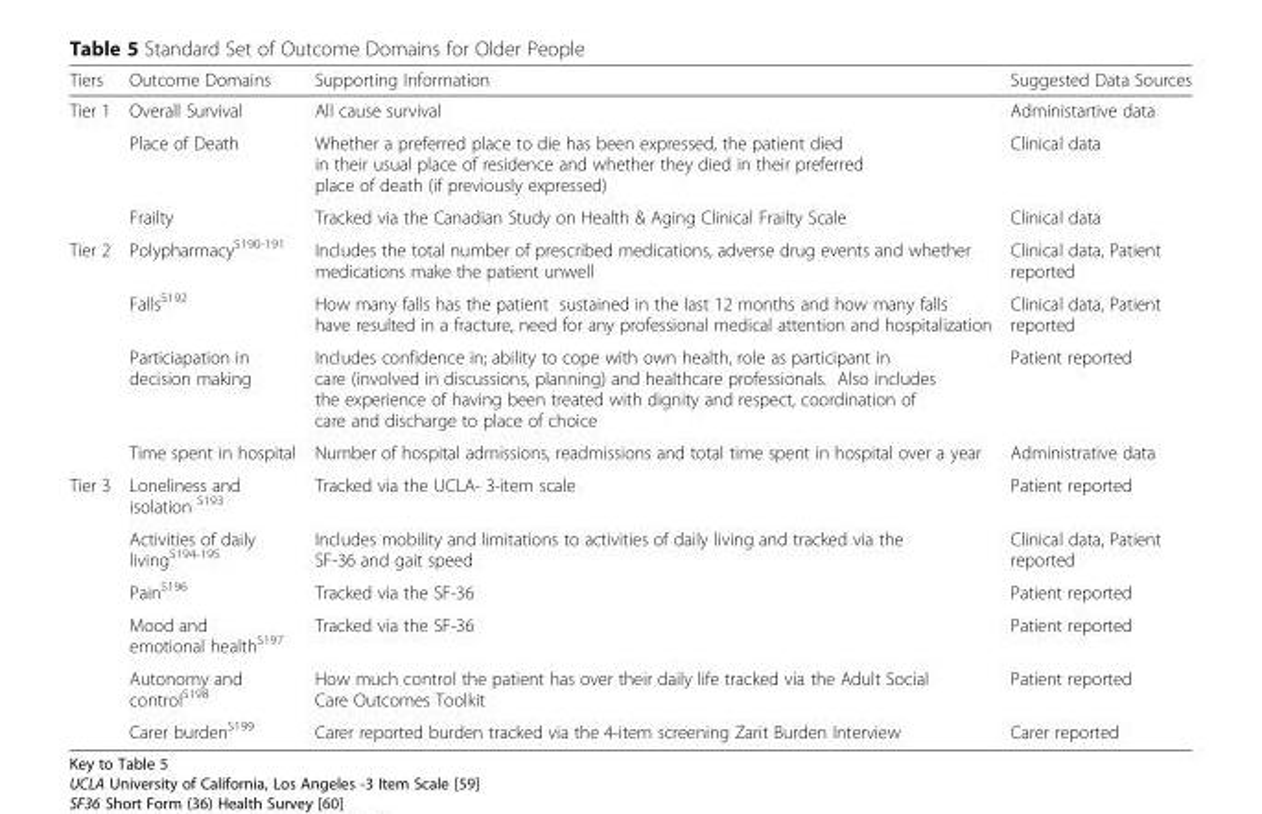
<table><thead><tr><td>Tiers</td><td>Outcome Domains</td><td>Supporting Information</td><td>Suggested Data Sources</td></tr></thead><tbody><tr><td rowspan="3">Tier 1</td><td>Overall Survival</td><td>All cause survival</td><td>Administartive data</td></tr><tr><td>Place of Death</td><td>Whether a preferred place to die has been expressed, the patient died in their usual place of residence and whether they died in their preferred place of death (if previously expressed)</td><td>Clinical data</td></tr><tr><td>Frailty</td><td>Tracked via the Canadian Study on Health &amp; Aging Clinical Frailty Scale</td><td>Clinical data</td></tr><tr><td rowspan="4">Tier 2</td><td>Polypharmacy<sup>S190-191</sup></td><td>Includes the total number of prescribed medications, adverse drug events and whether medications make the patient unwell</td><td>Clinical data, Patient reported</td></tr><tr><td>Falls<sup>S192</sup></td><td>How many falls has the patient sustained in the last 12 months and how many falls have resulted in a fracture, need for any professional medical attention and hospitalization</td><td>Clinical data, Patient reported</td></tr><tr><td>Particiapation in decision making</td><td>Includes confidence in; ability to cope with own health, role as participant in care (involved in discussions, planning) and healthcare professionals. Also includes the experience of having been treated with dignity and respect, coordination of care and discharge to place of choice</td><td>Patient reported</td></tr><tr><td>Time spent in hospital</td><td>Number of hospital admissions, readmissions and total time spent in hospital over a year</td><td>Administrative data</td></tr><tr><td rowspan="6">Tier 3</td><td>Loneliness and isolation <sup>S193</sup></td><td>Tracked via the UCLA- 3-item scale</td><td>Patient reported</td></tr><tr><td>Activities of daily living<sup>S194-195</sup></td><td>Includes mobility and limitations to activities of daily living and tracked via the SF-36 and gait speed</td><td>Clinical data, Patient reported</td></tr><tr><td>Pain<sup>S196</sup></td><td>Tracked via the SF-36</td><td>Patient reported</td></tr><tr><td>Mood and emotional health<sup>S197</sup></td><td>Tracked via the SF-36</td><td>Patient reported</td></tr><tr><td>Autonomy and control<sup>S198</sup></td><td>How much control the patient has over their daily life tracked via the Adult Social Care Outcomes Toolkit</td><td>Patient reported</td></tr><tr><td>Carer burden<sup>S199</sup></td><td>Carer reported burden tracked via the 4-item screening Zarit Burden Interview</td><td>Carer reported</td></tr></tbody></table>